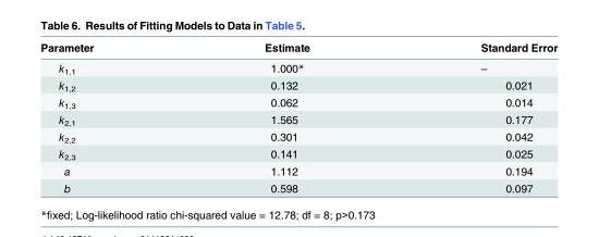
<table><thead><tr><td>Parameter</td><td>Estimate</td><td>Standard Error</td></tr></thead><tbody><tr><td>k<sub>1,1</sub></td><td>1.000*</td><td>–</td></tr><tr><td>k<sub>1,2</sub></td><td>0.132</td><td>0.021</td></tr><tr><td>k<sub>1,3</sub></td><td>0.062</td><td>0.014</td></tr><tr><td>k<sub>2,1</sub></td><td>1.565</td><td>0.177</td></tr><tr><td>k<sub>2,2</sub></td><td>0.301</td><td>0.042</td></tr><tr><td>k<sub>2,3</sub></td><td>0.141</td><td>0.025</td></tr><tr><td>a</td><td>1.112</td><td>0.194</td></tr><tr><td>b</td><td>0.598</td><td>0.097</td></tr></tbody></table>